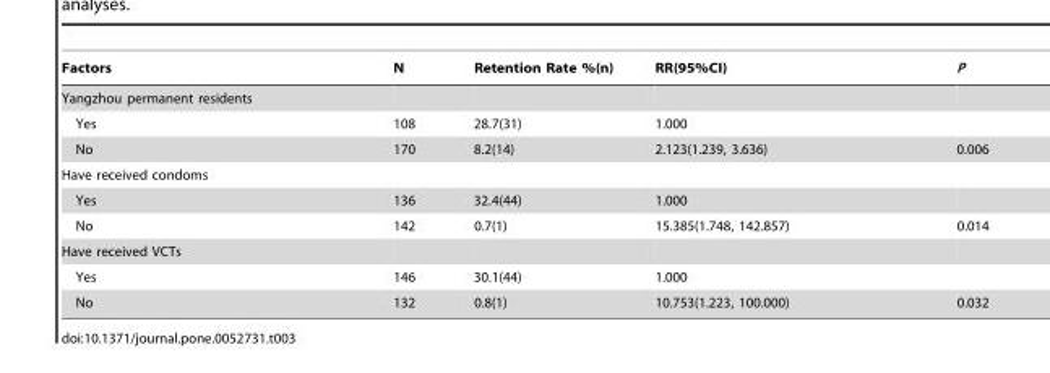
<table><thead><tr><td>Factors</td><td>N</td><td>Retention Rate %(n)</td><td>RR(95%CI)</td><td>P</td></tr></thead><tbody><tr><td colspan="5">Yangzhou permanent residents</td></tr><tr><td>Yes</td><td>108</td><td>28.7(31)</td><td>1.000</td><td></td></tr><tr><td>No</td><td>170</td><td>8.2(14)</td><td>2.123(1.239, 3.636)</td><td>0.006</td></tr><tr><td colspan="5">Have received condoms</td></tr><tr><td>Yes</td><td>136</td><td>32.4(44)</td><td>1.000</td><td></td></tr><tr><td>No</td><td>142</td><td>0.7(1)</td><td>15.385(1.748, 142.857)</td><td>0.014</td></tr><tr><td colspan="5">Have received VCTs</td></tr><tr><td>Yes</td><td>146</td><td>30.1(44)</td><td>1.000</td><td></td></tr><tr><td>No</td><td>132</td><td>0.8(1)</td><td>10.753(1.223, 100.000)</td><td>0.032</td></tr></tbody></table>